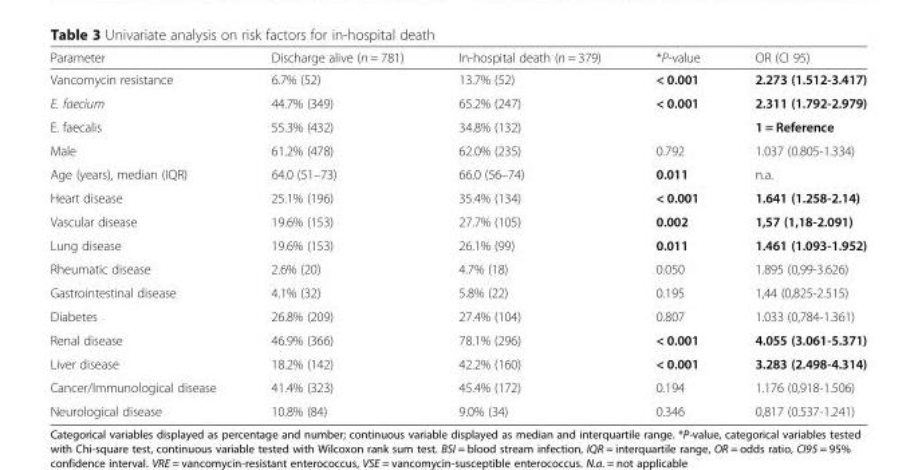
<table><thead><tr><td>Parameter</td><td>Discharge alive (n = 781)</td><td>In-hospital death (n = 379)</td><td>*P-value</td><td>OR (CI 95)</td></tr></thead><tbody><tr><td>Vancomycin resistance</td><td>6.7% (52)</td><td>13.7% (52)</td><td>&lt; 0.001</td><td>2.273 (1.512-3.417)</td></tr><tr><td>E. faecium</td><td>44.7% (349)</td><td>65.2% (247)</td><td rowspan="2">&lt; 0.001</td><td>2.311 (1.792-2.979)</td></tr><tr><td>E. faecalis</td><td>55.3% (432)</td><td>34.8% (132)</td><td>1 = Reference</td></tr><tr><td>Male</td><td>61.2% (478)</td><td>62.0% (235)</td><td>0.792</td><td>1.037 (0.805-1.334)</td></tr><tr><td>Age (years), median (IQR)</td><td>64.0 (51–73)</td><td>66.0 (56–74)</td><td>0.011</td><td>n.a.</td></tr><tr><td>Heart disease</td><td>25.1% (196)</td><td>35.4% (134)</td><td>&lt; 0.001</td><td>1.641 (1.258-2.14)</td></tr><tr><td>Vascular disease</td><td>19.6% (153)</td><td>27.7% (105)</td><td>0.002</td><td>1,57 (1,18-2.091)</td></tr><tr><td>Lung disease</td><td>19.6% (153)</td><td>26.1% (99)</td><td>0.011</td><td>1.461 (1.093-1.952)</td></tr><tr><td>Rheumatic disease</td><td>2.6% (20)</td><td>4.7% (18)</td><td>0.050</td><td>1.895 (0,99-3.626)</td></tr><tr><td>Gastrointestinal disease</td><td>4.1% (32)</td><td>5.8% (22)</td><td>0.195</td><td>1,44 (0,825-2.515)</td></tr><tr><td>Diabetes</td><td>26.8% (209)</td><td>27.4% (104)</td><td>0.807</td><td>1.033 (0,784-1.361)</td></tr><tr><td>Renal disease</td><td>46.9% (366)</td><td>78.1% (296)</td><td>&lt; 0.001</td><td>4.055 (3.061-5.371)</td></tr><tr><td>Liver disease</td><td>18.2% (142)</td><td>42.2% (160)</td><td>&lt; 0.001</td><td>3.283 (2.498-4.314)</td></tr><tr><td>Cancer/Immunological disease</td><td>41.4% (323)</td><td>45.4% (172)</td><td>0.194</td><td>1.176 (0,918-1.506)</td></tr><tr><td>Neurological disease</td><td>10.8% (84)</td><td>9.0% (34)</td><td>0.346</td><td>0,817 (0.537-1.241)</td></tr></tbody></table>